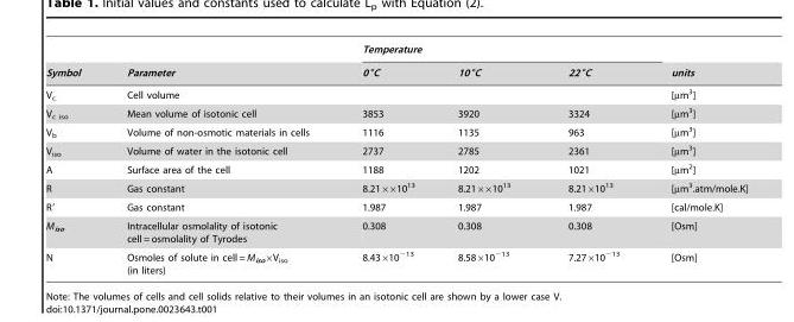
<table><thead><tr><td rowspan="2">Symbol</td><td rowspan="2">Parameter</td><td colspan="3">Temperature</td><td rowspan="2">units</td></tr><tr><td>0°C</td><td>10°C</td><td>22°C</td></tr></thead><tbody><tr><td>V<sub>c</sub></td><td>Cell volume</td><td></td><td></td><td></td><td>[µm<sup>3</sup>]</td></tr><tr><td>V<sub>c iso</sub></td><td>Mean volume of isotonic cell</td><td>3853</td><td>3920</td><td>3324</td><td>[µm<sup>3</sup>]</td></tr><tr><td>V<sub>b</sub></td><td>Volume of non-osmotic materials in cells</td><td>1116</td><td>1135</td><td>963</td><td>[µm<sup>3</sup>]</td></tr><tr><td>V<sub>iso</sub></td><td>Volume of water in the isotonic cell</td><td>2737</td><td>2785</td><td>2361</td><td>[µm<sup>3</sup>]</td></tr><tr><td>A</td><td>Surface area of the cell</td><td>1188</td><td>1202</td><td>1021</td><td>[µm<sup>2</sup>]</td></tr><tr><td>R</td><td>Gas constant</td><td>8.21××10<sup>13</sup></td><td>8.21××10<sup>13</sup></td><td>8.21×10<sup>13</sup></td><td>[µm<sup>3</sup>.atm/mole.K]</td></tr><tr><td>R′</td><td>Gas constant</td><td>1.987</td><td>1.987</td><td>1.987</td><td>[cal/mole.K]</td></tr><tr><td>M<sub>iso</sub></td><td>Intracellular osmolality of isotonic cell = osmolality of Tyrodes</td><td>0.308</td><td>0.308</td><td>0.308</td><td>[Osm]</td></tr><tr><td>N</td><td>Osmoles of solute in cell = M<sub>iso</sub>×V<sub>iso</sub> (in liters)</td><td>8.43×10<sup>−13</sup></td><td>8.58×10<sup>−13</sup></td><td>7.27×10<sup>−13</sup></td><td>[Osm]</td></tr></tbody></table>